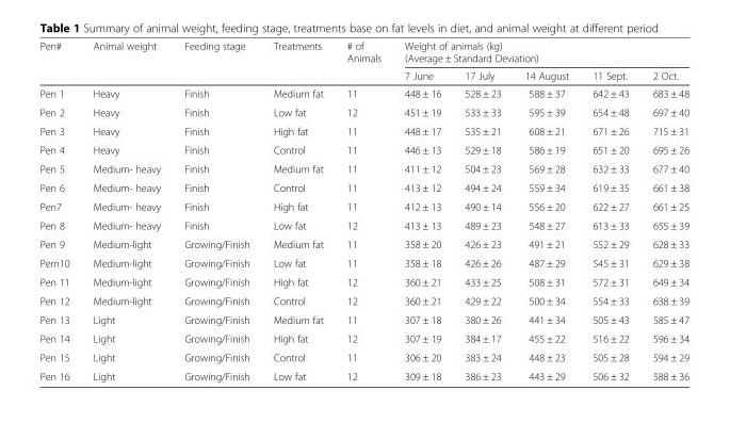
<table><thead><tr><td rowspan="2">Pen#</td><td rowspan="2">Animal weight</td><td rowspan="2">Feeding stage</td><td rowspan="2">Treatments</td><td rowspan="2"># of Animals</td><td colspan="5">Weight of animals (kg) (Average ± Standard Deviation)</td></tr><tr><td>7 June</td><td>17 July</td><td>14 August</td><td>11 Sept.</td><td>2 Oct.</td></tr></thead><tbody><tr><td>Pen 1</td><td>Heavy</td><td>Finish</td><td>Medium fat</td><td>11</td><td>448 ± 16</td><td>528 ± 23</td><td>588 ± 37</td><td>642 ± 43</td><td>683 ± 48</td></tr><tr><td>Pen 2</td><td>Heavy</td><td>Finish</td><td>Low fat</td><td>12</td><td>451 ± 19</td><td>533 ± 33</td><td>595 ± 39</td><td>654 ± 48</td><td>697 ± 40</td></tr><tr><td>Pen 3</td><td>Heavy</td><td>Finish</td><td>High fat</td><td>11</td><td>448 ± 17</td><td>535 ± 21</td><td>608 ± 21</td><td>671 ± 26</td><td>715 ± 31</td></tr><tr><td>Pen 4</td><td>Heavy</td><td>Finish</td><td>Control</td><td>11</td><td>446 ± 13</td><td>529 ± 18</td><td>586 ± 19</td><td>651 ± 20</td><td>695 ± 26</td></tr><tr><td>Pen 5</td><td>Medium- heavy</td><td>Finish</td><td>Medium fat</td><td>11</td><td>411 ± 12</td><td>504 ± 23</td><td>569 ± 28</td><td>632 ± 33</td><td>677 ± 40</td></tr><tr><td>Pen 6</td><td>Medium- heavy</td><td>Finish</td><td>Control</td><td>11</td><td>413 ± 12</td><td>494 ± 24</td><td>559 ± 34</td><td>619 ± 35</td><td>661 ± 38</td></tr><tr><td>Pen7</td><td>Medium- heavy</td><td>Finish</td><td>High fat</td><td>11</td><td>412 ± 13</td><td>490 ± 14</td><td>556 ± 20</td><td>622 ± 27</td><td>661 ± 25</td></tr><tr><td>Pen 8</td><td>Medium- heavy</td><td>Finish</td><td>Low fat</td><td>12</td><td>413 ± 13</td><td>489 ± 23</td><td>548 ± 27</td><td>613 ± 33</td><td>655 ± 39</td></tr><tr><td>Pen 9</td><td>Medium-light</td><td>Growing/Finish</td><td>Medium fat</td><td>11</td><td>358 ± 20</td><td>426 ± 23</td><td>491 ± 21</td><td>552 ± 29</td><td>628 ± 33</td></tr><tr><td>Pem10</td><td>Medium-light</td><td>Growing/Finish</td><td>Low fat</td><td>11</td><td>358 ± 18</td><td>426 ± 26</td><td>487 ± 29</td><td>545 ± 31</td><td>629 ± 38</td></tr><tr><td>Pen 11</td><td>Medium-light</td><td>Growing/Finish</td><td>High fat</td><td>12</td><td>360 ± 21</td><td>433 ± 25</td><td>508 ± 31</td><td>572 ± 31</td><td>649 ± 34</td></tr><tr><td>Pen 12</td><td>Medium-light</td><td>Growing/Finish</td><td>Control</td><td>12</td><td>360 ± 21</td><td>429 ± 22</td><td>500 ± 34</td><td>554 ± 33</td><td>638 ± 39</td></tr><tr><td>Pen 13</td><td>Light</td><td>Growing/Finish</td><td>Medium fat</td><td>11</td><td>307 ± 18</td><td>380 ± 26</td><td>441 ± 34</td><td>505 ± 43</td><td>585 ± 47</td></tr><tr><td>Pen 14</td><td>Light</td><td>Growing/Finish</td><td>High fat</td><td>12</td><td>307 ± 19</td><td>384 ± 17</td><td>455 ± 22</td><td>516 ± 22</td><td>596 ± 34</td></tr><tr><td>Pen 15</td><td>Light</td><td>Growing/Finish</td><td>Control</td><td>11</td><td>306 ± 20</td><td>383 ± 24</td><td>448 ± 23</td><td>505 ± 28</td><td>594 ± 29</td></tr><tr><td>Pen 16</td><td>Light</td><td>Growing/Finish</td><td>Low fat</td><td>12</td><td>309 ± 18</td><td>386 ± 23</td><td>443 ± 29</td><td>506 ± 32</td><td>588 ± 36</td></tr></tbody></table>